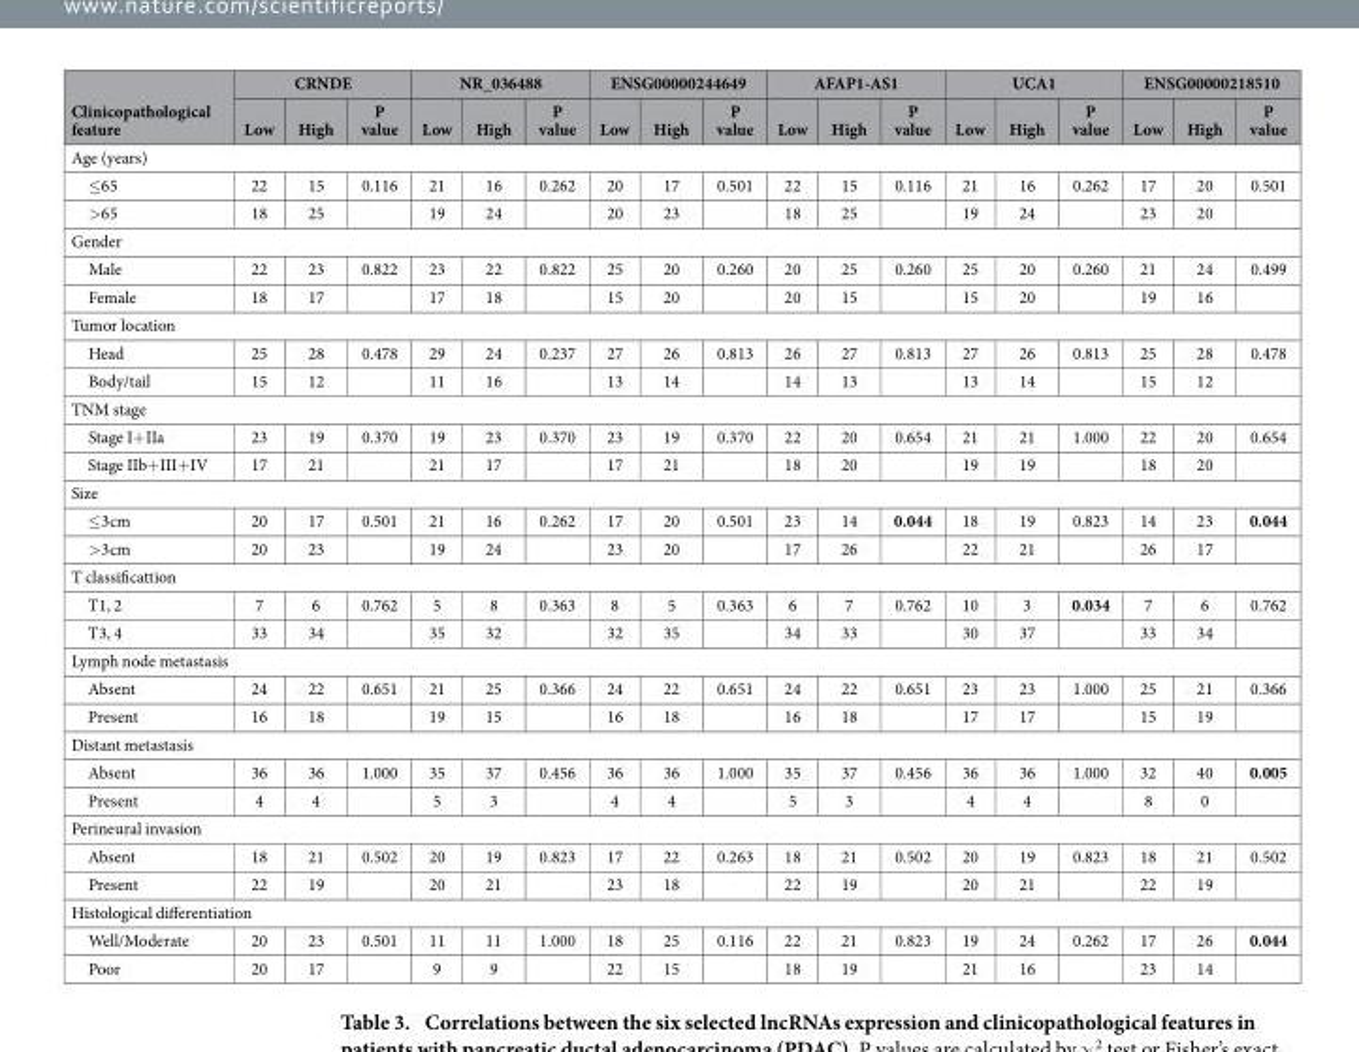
<table><thead><tr><td rowspan="2">Clinicopathological feature</td><td colspan="3">CRNDE</td><td colspan="3">NR_036488</td><td colspan="3">ENSG00000244649</td><td colspan="3">AFAP1-AS1</td><td colspan="3">UCA1</td><td colspan="3">ENSG00000218510</td></tr><tr><td>Low</td><td>High</td><td>P value</td><td>Low</td><td>High</td><td>P value</td><td>Low</td><td>High</td><td>P value</td><td>Low</td><td>High</td><td>P value</td><td>Low</td><td>High</td><td>P value</td><td>Low</td><td>High</td><td>P value</td></tr></thead><tbody><tr><td colspan="19">Age (years)</td></tr><tr><td>≤ 65</td><td>22</td><td>15</td><td>0.116</td><td>21</td><td>16</td><td>0.262</td><td>20</td><td>17</td><td>0.501</td><td>22</td><td>15</td><td>0.116</td><td>21</td><td>16</td><td>0.262</td><td>17</td><td>20</td><td>0.501</td></tr><tr><td>&gt; 65</td><td>18</td><td>25</td><td></td><td>19</td><td>24</td><td></td><td>20</td><td>23</td><td></td><td>18</td><td>25</td><td></td><td>19</td><td>24</td><td></td><td>23</td><td>20</td><td></td></tr><tr><td colspan="19">Gender</td></tr><tr><td>Male</td><td>22</td><td>23</td><td>0.822</td><td>23</td><td>22</td><td>0.822</td><td>25</td><td>20</td><td>0.260</td><td>20</td><td>25</td><td>0.260</td><td>25</td><td>20</td><td>0.260</td><td>21</td><td>24</td><td>0.499</td></tr><tr><td>Female</td><td>18</td><td>17</td><td></td><td>17</td><td>18</td><td></td><td>15</td><td>20</td><td></td><td>20</td><td>15</td><td></td><td>15</td><td>20</td><td></td><td>19</td><td>16</td><td></td></tr><tr><td colspan="19">Tumor location</td></tr><tr><td>Head</td><td>25</td><td>28</td><td>0.478</td><td>29</td><td>24</td><td>0.237</td><td>27</td><td>26</td><td>0.813</td><td>26</td><td>27</td><td>0.813</td><td>27</td><td>26</td><td>0.813</td><td>25</td><td>28</td><td>0.478</td></tr><tr><td>Body/tail</td><td>15</td><td>12</td><td></td><td>11</td><td>16</td><td></td><td>13</td><td>14</td><td></td><td>14</td><td>13</td><td></td><td>13</td><td>14</td><td></td><td>15</td><td>12</td><td></td></tr><tr><td colspan="19">TNM stage</td></tr><tr><td>Stage I+ IIa</td><td>23</td><td>19</td><td>0.370</td><td>19</td><td>23</td><td>0.370</td><td>23</td><td>19</td><td>0.370</td><td>22</td><td>20</td><td>0.654</td><td>21</td><td>21</td><td>1.000</td><td>22</td><td>20</td><td>0.654</td></tr><tr><td>Stage IIb+ III+ IV</td><td>17</td><td>21</td><td></td><td>21</td><td>17</td><td></td><td>17</td><td>21</td><td></td><td>18</td><td>20</td><td></td><td>19</td><td>19</td><td></td><td>18</td><td>20</td><td></td></tr><tr><td colspan="19">Size</td></tr><tr><td>≤ 3cm</td><td>20</td><td>17</td><td>0.501</td><td>21</td><td>16</td><td>0.262</td><td>17</td><td>20</td><td>0.501</td><td>23</td><td>14</td><td>0.044</td><td>18</td><td>19</td><td>0.823</td><td>14</td><td>23</td><td>0.044</td></tr><tr><td>&gt; 3cm</td><td>20</td><td>23</td><td></td><td>19</td><td>24</td><td></td><td>23</td><td>20</td><td></td><td>17</td><td>26</td><td></td><td>22</td><td>21</td><td></td><td>26</td><td>17</td><td></td></tr><tr><td colspan="19">T classificattion</td></tr><tr><td>T1, 2</td><td>7</td><td>6</td><td>0.762</td><td>5</td><td>8</td><td>0.363</td><td>8</td><td>5</td><td>0.363</td><td>6</td><td>7</td><td>0.762</td><td>10</td><td>3</td><td>0.034</td><td>7</td><td>6</td><td>0.762</td></tr><tr><td>T3, 4</td><td>33</td><td>34</td><td></td><td>35</td><td>32</td><td></td><td>32</td><td>35</td><td></td><td>34</td><td>33</td><td></td><td>30</td><td>37</td><td></td><td>33</td><td>34</td><td></td></tr><tr><td colspan="19">Lymph node metastasis</td></tr><tr><td>Absent</td><td>24</td><td>22</td><td>0.651</td><td>21</td><td>25</td><td>0.366</td><td>24</td><td>22</td><td>0.651</td><td>24</td><td>22</td><td>0.651</td><td>23</td><td>23</td><td>1.000</td><td>25</td><td>21</td><td>0.366</td></tr><tr><td>Present</td><td>16</td><td>18</td><td></td><td>19</td><td>15</td><td></td><td>16</td><td>18</td><td></td><td>16</td><td>18</td><td></td><td>17</td><td>17</td><td></td><td>15</td><td>19</td><td></td></tr><tr><td colspan="19">Distant metastasis</td></tr><tr><td>Absent</td><td>36</td><td>36</td><td>1.000</td><td>35</td><td>37</td><td>0.456</td><td>36</td><td>36</td><td>1.000</td><td>35</td><td>37</td><td>0.456</td><td>36</td><td>36</td><td>1.000</td><td>32</td><td>40</td><td>0.005</td></tr><tr><td>Present</td><td>4</td><td>4</td><td></td><td>5</td><td>3</td><td></td><td>4</td><td>4</td><td></td><td>5</td><td>3</td><td></td><td>4</td><td>4</td><td></td><td>8</td><td>0</td><td></td></tr><tr><td colspan="19">Perineural invasion</td></tr><tr><td>Absent</td><td>18</td><td>21</td><td>0.502</td><td>20</td><td>19</td><td>0.823</td><td>17</td><td>22</td><td>0.263</td><td>18</td><td>21</td><td>0.502</td><td>20</td><td>19</td><td>0.823</td><td>18</td><td>21</td><td>0.502</td></tr><tr><td>Present</td><td>22</td><td>19</td><td></td><td>20</td><td>21</td><td></td><td>23</td><td>18</td><td></td><td>22</td><td>19</td><td></td><td>20</td><td>21</td><td></td><td>22</td><td>19</td><td></td></tr><tr><td colspan="19">Histological differentiation</td></tr><tr><td>Well/Moderate</td><td>20</td><td>23</td><td>0.501</td><td>11</td><td>11</td><td>1.000</td><td>18</td><td>25</td><td>0.116</td><td>22</td><td>21</td><td>0.823</td><td>19</td><td>24</td><td>0.262</td><td>17</td><td>26</td><td>0.044</td></tr><tr><td>Poor</td><td>20</td><td>17</td><td></td><td>9</td><td>9</td><td></td><td>22</td><td>15</td><td></td><td>18</td><td>19</td><td></td><td>21</td><td>16</td><td></td><td>23</td><td>14</td><td></td></tr></tbody></table>